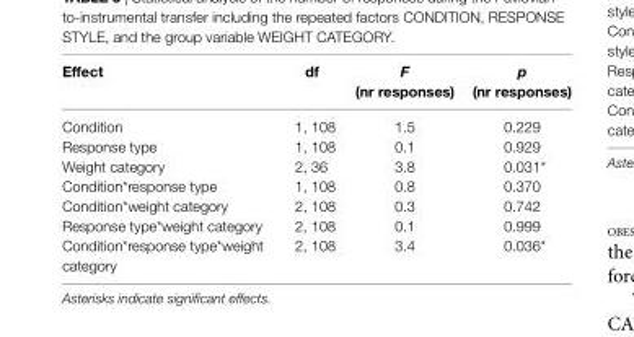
<table><thead><tr><td>effect</td><td>df</td><td>F (nr responses)</td><td>p (nr responses)</td></tr></thead><tbody><tr><td>Condition</td><td>1, 108</td><td>1.5</td><td>0.229</td></tr><tr><td>Response type</td><td>1, 108</td><td>0.1</td><td>0.929</td></tr><tr><td>Weight category</td><td>2, 36</td><td>3.8</td><td>0.031*</td></tr><tr><td>Condition*response type</td><td>1, 108</td><td>0.8</td><td>0.370</td></tr><tr><td>Condition*weight category</td><td>2, 108</td><td>0.3</td><td>0.742</td></tr><tr><td>Response type*weight category</td><td>2, 108</td><td>0.1</td><td>0.999</td></tr><tr><td>Condition*response type*weight category</td><td>2, 108</td><td>3.4</td><td>0.036*</td></tr></tbody></table>